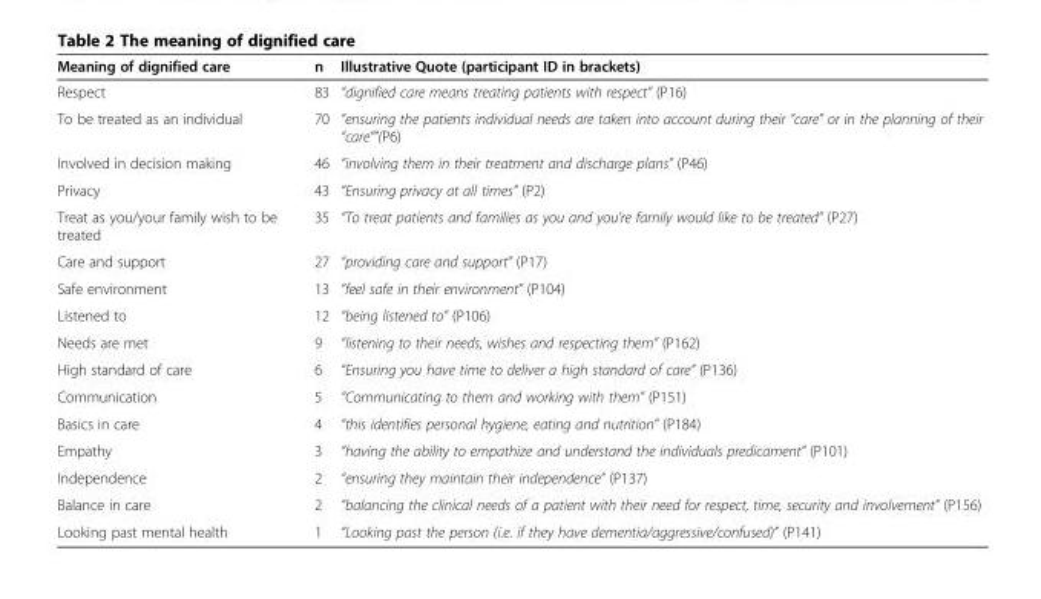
<table><thead><tr><td>Meaning of dignified care</td><td>n</td><td>Illustrative Quote (participant ID in brackets)</td></tr></thead><tbody><tr><td>Respect</td><td>83</td><td>“dignified care means treating patients with respect” (P16)</td></tr><tr><td>To be treated as an individual</td><td>70</td><td>“ensuring the patients individual needs are taken into account during their “care” or in the planning of their “care””(P6)</td></tr><tr><td>Involved in decision making</td><td>46</td><td>“involving them in their treatment and discharge plans” (P46)</td></tr><tr><td>Privacy</td><td>43</td><td>“Ensuring privacy at all times” (P2)</td></tr><tr><td>Treat as you/your family wish to be treated</td><td>35</td><td>“To treat patients and families as you and you’re family would like to be treated” (P27)</td></tr><tr><td>Care and support</td><td>27</td><td>“providing care and support” (P17)</td></tr><tr><td>Safe environment</td><td>13</td><td>“feel safe in their environment” (P104)</td></tr><tr><td>Listened to</td><td>12</td><td>“being listened to” (P106)</td></tr><tr><td>Needs are met</td><td>9</td><td>“listening to their needs, wishes and respecting them” (P162)</td></tr><tr><td>High standard of care</td><td>6</td><td>“Ensuring you have time to deliver a high standard of care” (P136)</td></tr><tr><td>Communication</td><td>5</td><td>“Communicating to them and working with them” (P151)</td></tr><tr><td>Basics in care</td><td>4</td><td>“this identifies personal hygiene, eating and nutrition” (P184)</td></tr><tr><td>Empathy</td><td>3</td><td>“having the ability to empathize and understand the individuals predicament” (P101)</td></tr><tr><td>Independence</td><td>2</td><td>“ensuring they maintain their independence” (P137)</td></tr><tr><td>Balance in care</td><td>2</td><td>“balancing the clinical needs of a patient with their need for respect, time, security and involvement” (P156)</td></tr><tr><td>Looking past mental health</td><td>1</td><td>“Looking past the person (i.e. if they have dementia/aggressive/confused)” (P141)</td></tr></tbody></table>